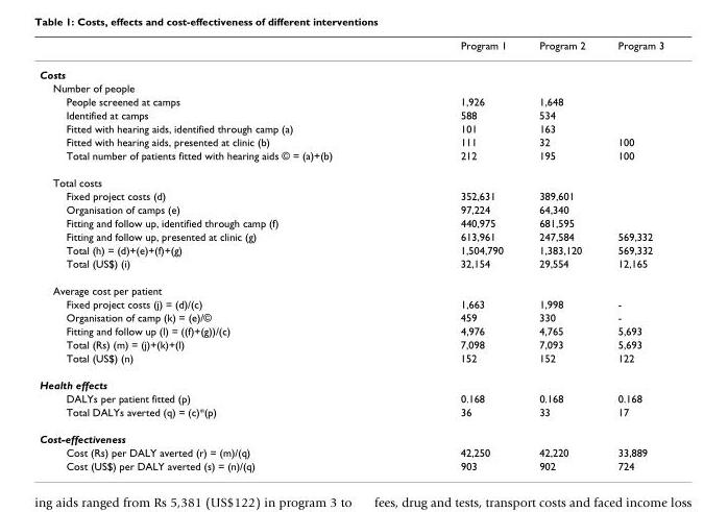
<table><thead><tr><td></td><td>Program 1</td><td>Program 2</td><td>Program 3</td></tr></thead><tbody><tr><td colspan="4">Costs</td></tr><tr><td colspan="4">Number of people</td></tr><tr><td>People screened at camps</td><td>1,926</td><td>1,648</td><td></td></tr><tr><td>Identified at camps</td><td>588</td><td>534</td><td></td></tr><tr><td>Fitted with hearing aids, identified through camp (a)</td><td>101</td><td>163</td><td></td></tr><tr><td>Fitted with hearing aids, presented at clinic (b)</td><td>111</td><td>32</td><td>100</td></tr><tr><td>Total number of patients fitted with hearing aids © = (a)+(b)</td><td>212</td><td>195</td><td>100</td></tr><tr><td colspan="4">Total costs</td></tr><tr><td>Fixed project costs (d)</td><td>352,631</td><td>389,601</td><td></td></tr><tr><td>Organisation of camps (e)</td><td>97,224</td><td>64,340</td><td></td></tr><tr><td>Fitting and follow up, identified through camp (f)</td><td>440,975</td><td>681,595</td><td></td></tr><tr><td>Fitting and follow up, presented at clinic (g)</td><td>613,961</td><td>247,584</td><td>569,332</td></tr><tr><td>Total (h) = (d)+(e)+(f)+(g)</td><td>1,504,790</td><td>1,383,120</td><td>569,332</td></tr><tr><td>Total (US$) (i)</td><td>32,154</td><td>29,554</td><td>12,165</td></tr><tr><td colspan="4">Average cost per patient</td></tr><tr><td>Fixed project costs (j) = (d)/(c)</td><td>1,663</td><td>1,998</td><td>-</td></tr><tr><td>Organisation of camp (k) = (e)/©</td><td>459</td><td>330</td><td>-</td></tr><tr><td>Fitting and follow up (l) = ((f)+(g))/(c)</td><td>4,976</td><td>4,765</td><td>5,693</td></tr><tr><td>Total (Rs) (m) = (j)+(k)+(l)</td><td>7,098</td><td>7,093</td><td>5,693</td></tr><tr><td>Total (US$) (n)</td><td>152</td><td>152</td><td>122</td></tr><tr><td colspan="4">Health effects</td></tr><tr><td>DALYs per patient fitted (p)</td><td>0.168</td><td>0.168</td><td>0.168</td></tr><tr><td>Total DALYs averted (q) = (c)*(p)</td><td>36</td><td>33</td><td>17</td></tr><tr><td colspan="4">Cost-effectiveness</td></tr><tr><td>Cost (Rs) per DALY averted (r) = (m)/(q)</td><td>42,250</td><td>42,220</td><td>33,889</td></tr><tr><td>Cost (US$) per DALY averted (s) = (n)/(q)</td><td>903</td><td>902</td><td>724</td></tr></tbody></table>